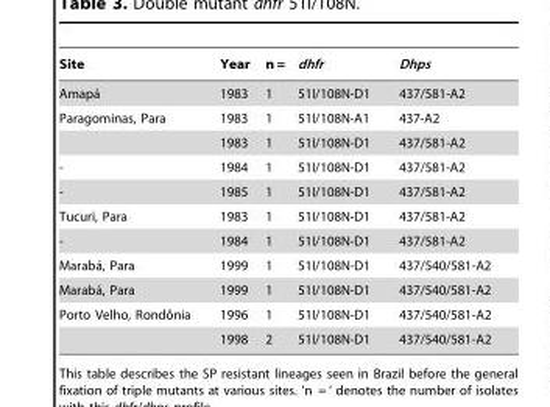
<table><thead><tr><td>Site</td><td>Year</td><td>n =</td><td>dhfr</td><td>Dhps</td></tr></thead><tbody><tr><td>Amapa´</td><td>1983</td><td>1</td><td>51I/108N-D1</td><td>437/581-A2</td></tr><tr><td rowspan="2">Paragominas, Para</td><td>1983</td><td>1</td><td>51I/108N-A1</td><td>437-A2</td></tr><tr><td>1983</td><td>1</td><td>51I/108N-D1</td><td>437/581-A2</td></tr><tr><td>-</td><td>1984</td><td>1</td><td>51I/108N-D1</td><td>437/581-A2</td></tr><tr><td>-</td><td>1985</td><td>1</td><td>51I/108N-D1</td><td>437/581-A2</td></tr><tr><td>Tucuri, Para</td><td>1983</td><td>1</td><td>51I/108N-D1</td><td>437/581-A2</td></tr><tr><td>-</td><td>1984</td><td>1</td><td>51I/108N-D1</td><td>437/581-A2</td></tr><tr><td>Maraba´, Para</td><td>1999</td><td>1</td><td>51I/108N-D1</td><td>437/540/581-A2</td></tr><tr><td>Maraba´, Para</td><td>1999</td><td>1</td><td>51I/108N-D1</td><td>437/540/581-A2</td></tr><tr><td rowspan="2">Porto Velho, Rondoˆnia</td><td>1996</td><td>1</td><td>51I/108N-D1</td><td>437/540/581-A2</td></tr><tr><td>1998</td><td>2</td><td>51I/108N-D1</td><td>437/540/581-A2</td></tr></tbody></table>